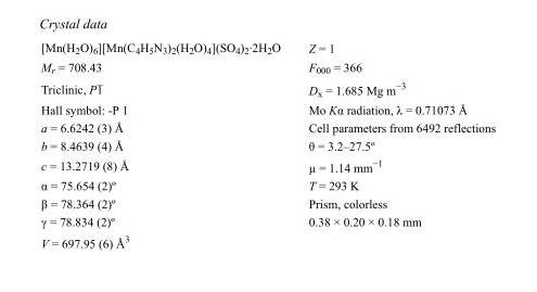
<table><tbody><tr><td>[Mn(H<sub>2</sub>O)<sub>6</sub>][Mn(C<sub>4</sub>H<sub>5</sub>N<sub>3</sub>)<sub>2</sub>(H<sub>2</sub>O)<sub>4</sub>](SO<sub>4</sub>)<sub>2</sub>·2H<sub>2</sub>O</td><td>Z = 1</td></tr><tr><td>M<sub>r</sub> = 708.43</td><td>F000 = 366</td></tr><tr><td>Triclinic, P1</td><td>D<sub>x</sub> = 1.685 Mg m<sup>−3</sup></td></tr><tr><td>Hall symbol: -P 1</td><td>Mo Kα radiation, λ = 0.71073 Å</td></tr><tr><td>a = 6.6242 (3) Å</td><td>Cell parameters from 6492 reflections</td></tr><tr><td>b = 8.4639 (4) Å</td><td>θ = 3.2–27.5º</td></tr><tr><td>c = 13.2719 (8) Å</td><td>µ = 1.14 mm<sup>−1</sup></td></tr><tr><td>α = 75.654 (2)º</td><td>T = 293 K</td></tr><tr><td>β = 78.364 (2)º</td><td>Prism, colorless</td></tr><tr><td>γ = 78.834 (2)º</td><td>0.38 × 0.20 × 0.18 mm</td></tr><tr><td>V = 697.95 (6) Å<sup>3</sup></td><td></td></tr></tbody></table>